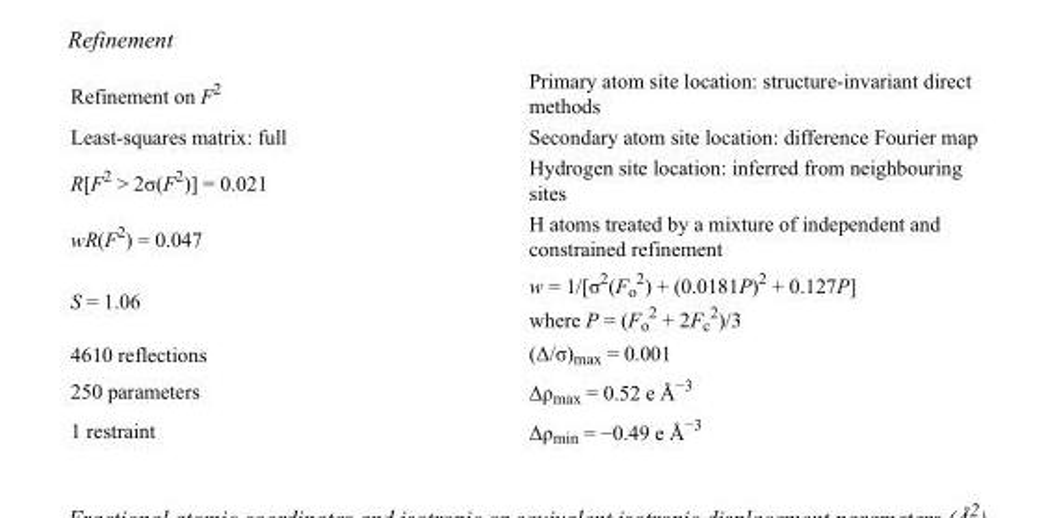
<table><tbody><tr><td>Refinement on F<sup>2</sup></td><td>Primary atom site location: structure-invariant direct methods</td></tr><tr><td>Least-squares matrix: full</td><td>Secondary atom site location: difference Fourier map</td></tr><tr><td>R[F<sup>2</sup> &gt; 2σ(F<sup>2</sup>)] = 0.021</td><td>Hydrogen site location: inferred from neighbouring sites</td></tr><tr><td>wR(F<sup>2</sup>) = 0.047</td><td>H atoms treated by a mixture of independent and constrained refinement</td></tr><tr><td>S = 1.06</td><td>w = 1/[σ<sup>2</sup>(F<sub>o</sub> <sup>2</sup>) + (0.0181P)<sup>2</sup> + 0.127P] where P = (F<sub>o</sub> <sup>2</sup> + 2F<sub>c</sub> <sup>2</sup>)/3</td></tr><tr><td>4610 reflections</td><td>(Δ/σ)<sub>max</sub> = 0.001</td></tr><tr><td>250 parameters</td><td>Δρ<sub>max</sub> = 0.52 e Å<sup>−3</sup></td></tr><tr><td>1 restraint</td><td>Δρ<sub>min</sub> = −0.49 e Å<sup>−3</sup></td></tr></tbody></table>